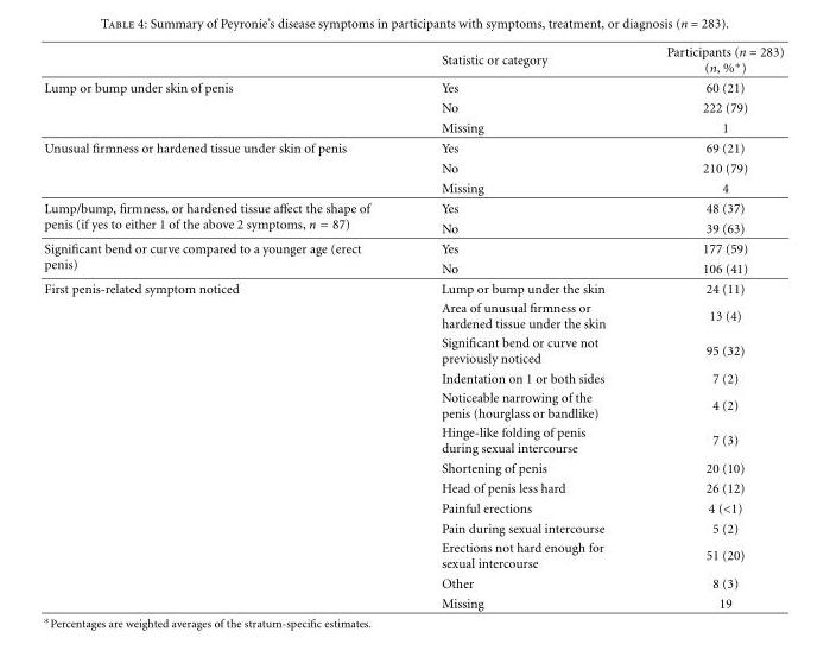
<table><thead><tr><td></td><td>Statistic or category</td><td>Participants (n = 283) (n, %∗)</td></tr></thead><tbody><tr><td rowspan="3">Lump or bump under skin of penis</td><td>Yes</td><td>60 (21)</td></tr><tr><td>No</td><td>222 (79)</td></tr><tr><td>Missing</td><td>1</td></tr><tr><td rowspan="3">Unusual firmness or hardened tissue under skin of penis</td><td>Yes</td><td>69 (21)</td></tr><tr><td>No</td><td>210 (79)</td></tr><tr><td>Missing</td><td>4</td></tr><tr><td rowspan="2">Lump/bump, firmness, or hardened tissue affect the shape of penis (if yes to either 1 of the above 2 symptoms, n = 87)</td><td>Yes</td><td>48 (37)</td></tr><tr><td>No</td><td>39 (63)</td></tr><tr><td rowspan="2">Significant bend or curve compared to a younger age (erect penis)</td><td>Yes</td><td>177 (59)</td></tr><tr><td>No</td><td>106 (41)</td></tr><tr><td rowspan="13">First penis-related symptom noticed</td><td>Lump or bump under the skin</td><td>24 (11)</td></tr><tr><td>Area of unusual firmness or hardened tissue under the skin</td><td>13 (4)</td></tr><tr><td>Significant bend or curve not previously noticed</td><td>95 (32)</td></tr><tr><td>Indentation on 1 or both sides</td><td>7 (2)</td></tr><tr><td>Noticeable narrowing of the penis (hourglass or bandlike)</td><td>4 (2)</td></tr><tr><td>Hinge-like folding of penis during sexual intercourse</td><td>7 (3)</td></tr><tr><td>Shortening of penis</td><td>20 (10)</td></tr><tr><td>Head of penis less hard</td><td>26 (12)</td></tr><tr><td>Painful erections</td><td>4 (&lt;1)</td></tr><tr><td>Pain during sexual intercourse</td><td>5 (2)</td></tr><tr><td>Erections not hard enough for sexual intercourse</td><td>51 (20)</td></tr><tr><td>Other</td><td>8 (3)</td></tr><tr><td>Missing</td><td>19</td></tr></tbody></table>